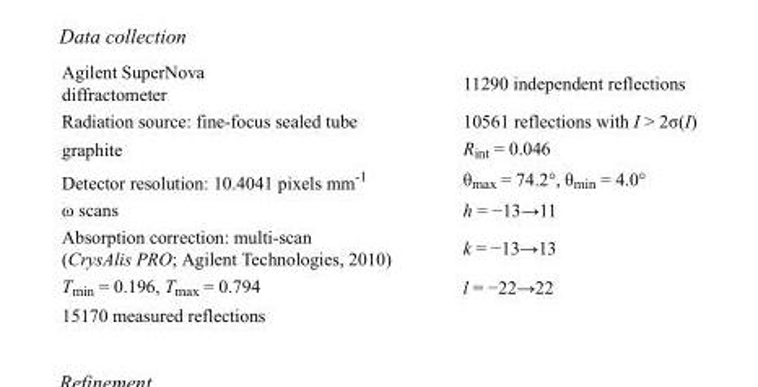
<table><tbody><tr><td>Agilent SuperNova diffractometer</td><td>11290 independent reflections</td></tr><tr><td>Radiation source: fine-focus sealed tube</td><td>10561 reflections with I &gt; 2σ(I)</td></tr><tr><td>graphite</td><td>R<sub>int</sub> = 0.046</td></tr><tr><td>Detector resolution: 10.4041 pixels mm<sup>-1</sup></td><td>θ<sub>max</sub> = 74.2°, θ<sub>min</sub> = 4.0°</td></tr><tr><td>ω scans</td><td>h = −13→11</td></tr><tr><td>Absorption correction: multi-scan (CrysAlis PRO; Agilent Technologies, 2010)</td><td>k = −13→13</td></tr><tr><td>T<sub>min</sub> = 0.196, T<sub>max</sub> = 0.794</td><td>l = −22→22</td></tr><tr><td>15170 measured reflections</td><td></td></tr></tbody></table>